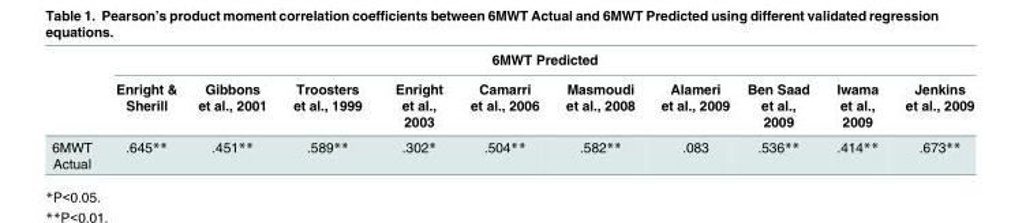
<table><thead><tr><td rowspan="2"></td><td colspan="10">6MWT Predicted</td></tr><tr><td>Enright &amp; Sherill</td><td>Gibbons et al., 2001</td><td>Troosters et al., 1999</td><td>Enright et al., 2003</td><td>Camarri et al., 2006</td><td>Masmoudi et al., 2008</td><td>Alameri et al., 2009</td><td>Ben Saad et al., 2009</td><td>Iwama et al., 2009</td><td>Jenkins et al., 2009</td></tr></thead><tbody><tr><td>6MWT Actual</td><td>.645**</td><td>.451**</td><td>.589**</td><td>.302*</td><td>.504**</td><td>.582**</td><td>.083</td><td>.536**</td><td>.414**</td><td>.673**</td></tr></tbody></table>